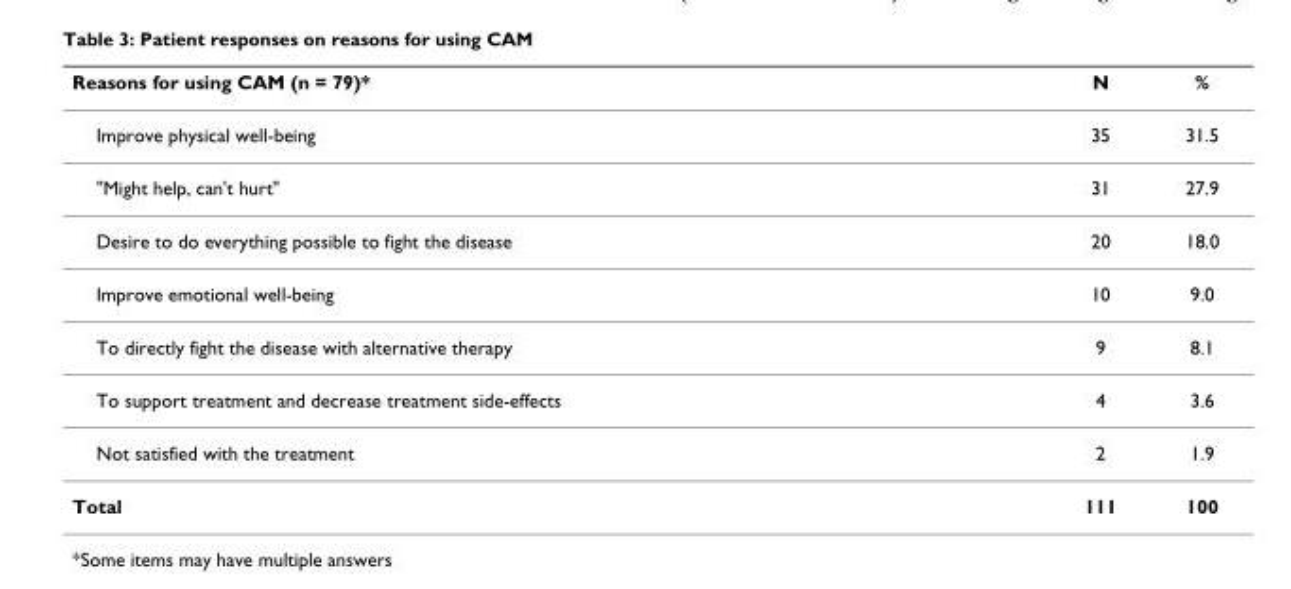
<table><thead><tr><td>Reasons for using CAM (n = 79)*</td><td>N</td><td>%</td></tr></thead><tbody><tr><td>Improve physical well-being</td><td>35</td><td>31.5</td></tr><tr><td>&quot;Might help, can&#x27;t hurt&quot;</td><td>31</td><td>27.9</td></tr><tr><td>Desire to do everything possible to fight the disease</td><td>20</td><td>18.0</td></tr><tr><td>Improve emotional well-being</td><td>10</td><td>9.0</td></tr><tr><td>To directly fight the disease with alternative therapy</td><td>9</td><td>8.1</td></tr><tr><td>To support treatment and decrease treatment side-effects</td><td>4</td><td>3.6</td></tr><tr><td>Not satisfied with the treatment</td><td>2</td><td>1.9</td></tr><tr><td>Total</td><td>111</td><td>100</td></tr></tbody></table>